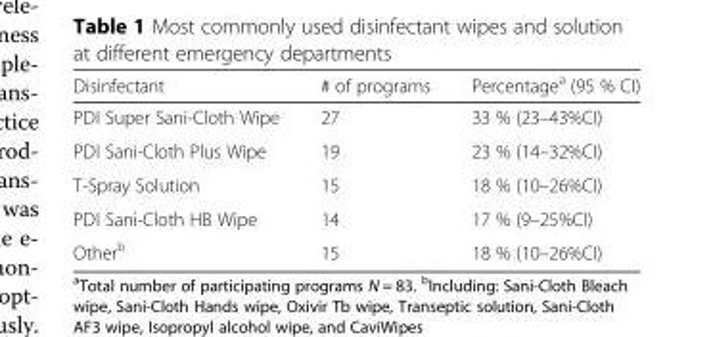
<table><thead><tr><td>Disinfectant</td><td># of programs</td><td>Percentage<sup>a</sup> (95 % CI)</td></tr></thead><tbody><tr><td>PDI Super Sani-Cloth Wipe</td><td>27</td><td>33 % (23–43%CI)</td></tr><tr><td>PDI Sani-Cloth Plus Wipe</td><td>19</td><td>23 % (14–32%CI)</td></tr><tr><td>T-Spray Solution</td><td>15</td><td>18 % (10–26%CI)</td></tr><tr><td>PDI Sani-Cloth HB Wipe</td><td>14</td><td>17 % (9–25%CI)</td></tr><tr><td>Other<sup>b</sup></td><td>15</td><td>18 % (10–26%CI)</td></tr></tbody></table>